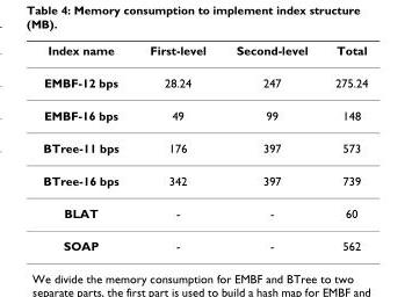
<table><thead><tr><td>Index name</td><td>First-level</td><td>Second-level</td><td>Total</td></tr></thead><tbody><tr><td>EMBF-12 bps</td><td>28.24</td><td>247</td><td>275.24</td></tr><tr><td>EMBF-16 bps</td><td>49</td><td>99</td><td>148</td></tr><tr><td>BTree-11 bps</td><td>176</td><td>397</td><td>573</td></tr><tr><td>BTree-16 bps</td><td>342</td><td>397</td><td>739</td></tr><tr><td>BLAT</td><td>-</td><td>-</td><td>60</td></tr><tr><td>SOAP</td><td>-</td><td>-</td><td>562</td></tr></tbody></table>